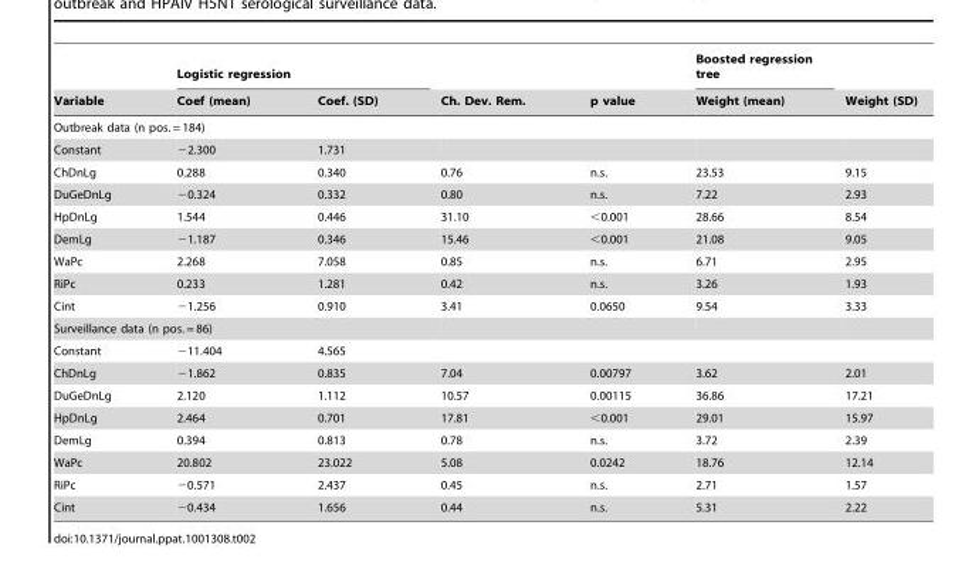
<table><thead><tr><td rowspan="2">Variable</td><td colspan="2">Logistic regression</td><td rowspan="2">Ch. Dev. Rem.</td><td rowspan="2">p value</td><td rowspan="2">Boosted regression tree Weight (mean)</td><td rowspan="2">Weight (SD)</td></tr><tr><td>Coef (mean)</td><td>Coef. (SD)</td></tr></thead><tbody><tr><td colspan="7">Outbreak data (n pos. = 184)</td></tr><tr><td>Constant</td><td>−2.300</td><td>1.731</td><td></td><td></td><td></td><td></td></tr><tr><td>ChDnLg</td><td>0.288</td><td>0.340</td><td>0.76</td><td>n.s.</td><td>23.53</td><td>9.15</td></tr><tr><td>DuGeDnLg</td><td>−0.324</td><td>0.332</td><td>0.80</td><td>n.s.</td><td>7.22</td><td>2.93</td></tr><tr><td>HpDnLg</td><td>1.544</td><td>0.446</td><td>31.10</td><td>&lt;0.001</td><td>28.66</td><td>8.54</td></tr><tr><td>DemLg</td><td>−1.187</td><td>0.346</td><td>15.46</td><td>&lt;0.001</td><td>21.08</td><td>9.05</td></tr><tr><td>WaPc</td><td>2.268</td><td>7.058</td><td>0.85</td><td>n.s.</td><td>6.71</td><td>2.95</td></tr><tr><td>RiPc</td><td>0.233</td><td>1.281</td><td>0.42</td><td>n.s.</td><td>3.26</td><td>1.93</td></tr><tr><td>Cint</td><td>−1.256</td><td>0.910</td><td>3.41</td><td>0.0650</td><td>9.54</td><td>3.33</td></tr><tr><td colspan="7">Surveillance data (n pos. = 86)</td></tr><tr><td>Constant</td><td>−11.404</td><td>4.565</td><td></td><td></td><td></td><td></td></tr><tr><td>ChDnLg</td><td>−1.862</td><td>0.835</td><td>7.04</td><td>0.00797</td><td>3.62</td><td>2.01</td></tr><tr><td>DuGeDnLg</td><td>2.120</td><td>1.112</td><td>10.57</td><td>0.00115</td><td>36.86</td><td>17.21</td></tr><tr><td>HpDnLg</td><td>2.464</td><td>0.701</td><td>17.81</td><td>&lt;0.001</td><td>29.01</td><td>15.97</td></tr><tr><td>DemLg</td><td>0.394</td><td>0.813</td><td>0.78</td><td>n.s.</td><td>3.72</td><td>2.39</td></tr><tr><td>WaPc</td><td>20.802</td><td>23.022</td><td>5.08</td><td>0.0242</td><td>18.76</td><td>12.14</td></tr><tr><td>RiPc</td><td>−0.571</td><td>2.437</td><td>0.45</td><td>n.s.</td><td>2.71</td><td>1.57</td></tr><tr><td>Cint</td><td>−0.434</td><td>1.656</td><td>0.44</td><td>n.s.</td><td>5.31</td><td>2.22</td></tr></tbody></table>